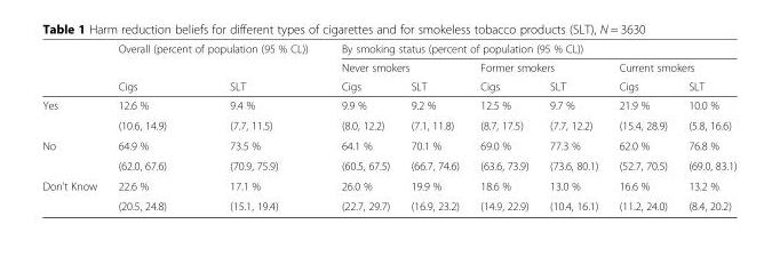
<table><thead><tr><td rowspan="3"></td><td colspan="2">Overall (percent of population (95 % CL))</td><td colspan="6">By smoking status (percent of population (95 % CL))</td></tr><tr><td rowspan="2">Cigs</td><td rowspan="2">SLT</td><td colspan="2">Never smokers</td><td colspan="2">Former smokers</td><td colspan="2">Current smokers</td></tr><tr><td>Cigs</td><td>SLT</td><td>Cigs</td><td>SLT</td><td>Cigs</td><td>SLT</td></tr></thead><tbody><tr><td rowspan="2">Yes</td><td>12.6 %</td><td>9.4 %</td><td>9.9 %</td><td>9.2 %</td><td>12.5 %</td><td>9.7 %</td><td>21.9 %</td><td>10.0 %</td></tr><tr><td>(10.6, 14.9)</td><td>(7.7, 11.5)</td><td>(8.0, 12.2)</td><td>(7.1, 11.8)</td><td>(8.7, 17.5)</td><td>(7.7, 12.2)</td><td>(15.4, 28.9)</td><td>(5.8, 16.6)</td></tr><tr><td rowspan="2">No</td><td>64.9 %</td><td>73.5 %</td><td>64.1 %</td><td>70.1 %</td><td>69.0 %</td><td>77.3 %</td><td>62.0 %</td><td>76.8 %</td></tr><tr><td>(62.0, 67.6)</td><td>(70.9, 75.9)</td><td>(60.5, 67.5)</td><td>(66.7, 74.6)</td><td>(63.6, 73.9)</td><td>(73.6, 80.1)</td><td>(52.7, 70.5)</td><td>(69.0, 83.1)</td></tr><tr><td rowspan="2">Don’t Know</td><td>22.6 %</td><td>17.1 %</td><td>26.0 %</td><td>19.9 %</td><td>18.6 %</td><td>13.0 %</td><td>16.6 %</td><td>13.2 %</td></tr><tr><td>(20.5, 24.8)</td><td>(15.1, 19.4)</td><td>(22.7, 29.7)</td><td>(16.9, 23.2)</td><td>(14.9, 22.9)</td><td>(10.4, 16.1)</td><td>(11.2, 24.0)</td><td>(8.4, 20.2)</td></tr></tbody></table>